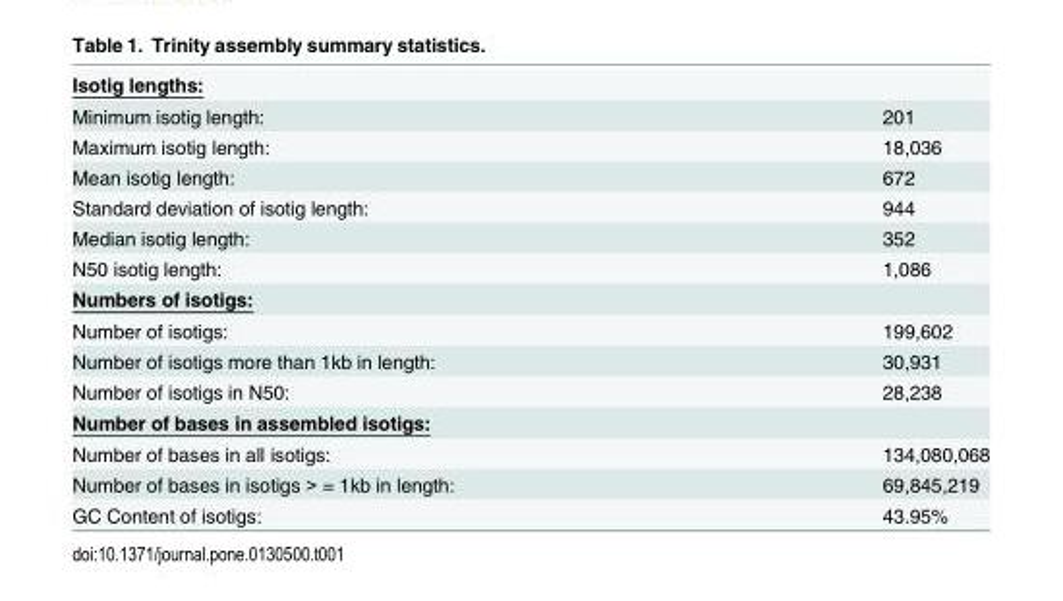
<table><tbody><tr><td colspan="2">Isotig lengths:</td></tr><tr><td>Minimum isotig length:</td><td>201</td></tr><tr><td>Maximum isotig length:</td><td>18,036</td></tr><tr><td>Mean isotig length:</td><td>672</td></tr><tr><td>Standard deviation of isotig length:</td><td>944</td></tr><tr><td>Median isotig length:</td><td>352</td></tr><tr><td>N50 isotig length:</td><td>1,086</td></tr><tr><td colspan="2">Numbers of isotigs:</td></tr><tr><td>Number of isotigs:</td><td>199,602</td></tr><tr><td>Number of isotigs more than 1kb in length:</td><td>30,931</td></tr><tr><td>Number of isotigs in N50:</td><td>28,238</td></tr><tr><td colspan="2">Number of bases in assembled isotigs:</td></tr><tr><td>Number of bases in all isotigs:</td><td>134,080,068</td></tr><tr><td>Number of bases in isotigs &gt; = 1kb in length:</td><td>69,845,219</td></tr><tr><td>GC Content of isotigs:</td><td>43.95%</td></tr></tbody></table>